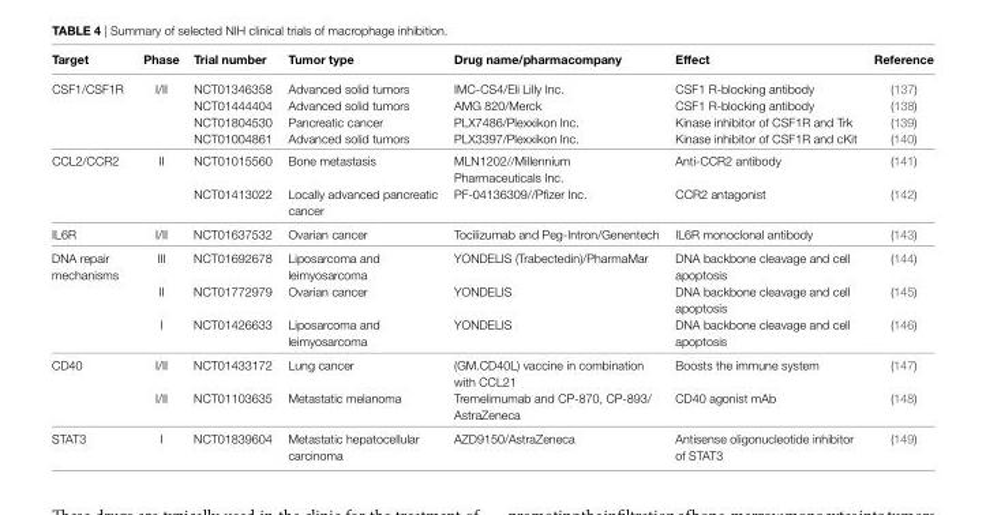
<table><thead><tr><td>Target</td><td>Phase</td><td>Trial number</td><td>Tumor type</td><td>Drug name/pharmacompany</td><td>effect</td><td>Reference</td></tr></thead><tbody><tr><td rowspan="4">CSF1/CSF1R</td><td>I/II</td><td>NCT01346358</td><td>Advanced solid tumors</td><td>IMC-CS4/Eli Lilly Inc.</td><td>CSF1 R-blocking antibody</td><td>(137)</td></tr><tr><td></td><td>NCT01444404</td><td>Advanced solid tumors</td><td>AMG 820/Merck</td><td>CSF1 R-blocking antibody</td><td>(138)</td></tr><tr><td></td><td>NCT01804530</td><td>Pancreatic cancer</td><td>PLX7486/Plexxikon Inc.</td><td>Kinase inhibitor of CSF1R and Trk</td><td>(139)</td></tr><tr><td></td><td>NCT01004861</td><td>Advanced solid tumors</td><td>PLX3397/Plexxikon Inc.</td><td>Kinase inhibitor of CSF1R and cKit</td><td>(140)</td></tr><tr><td rowspan="2">CCL2/CCR2</td><td>II</td><td>NCT01015560</td><td>Bone metastasis</td><td>MLN1202//Millennium Pharmaceuticals Inc.</td><td>Anti-CCR2 antibody</td><td>(141)</td></tr><tr><td></td><td>NCT01413022</td><td>Locally advanced pancreatic cancer</td><td>PF-04136309//Pfizer Inc.</td><td>CCR2 antagonist</td><td>(142)</td></tr><tr><td>IL6R</td><td>I/II</td><td>NCT01637532</td><td>Ovarian cancer</td><td>Tocilizumab and Peg-Intron/Genentech</td><td>IL6R monoclonal antibody</td><td>(143)</td></tr><tr><td rowspan="3">DNA repair mechanisms</td><td>III</td><td>NCT01692678</td><td>Liposarcoma and leimyosarcoma</td><td>YONDELIS (Trabectedin)/PharmaMar</td><td>DNA backbone cleavage and cell apoptosis</td><td>(144)</td></tr><tr><td>II</td><td>NCT01772979</td><td>Ovarian cancer</td><td>YONDELIS</td><td>DNA backbone cleavage and cell apoptosis</td><td>(145)</td></tr><tr><td>I</td><td>NCT01426633</td><td>Liposarcoma and leimyosarcoma</td><td>YONDELIS</td><td>DNA backbone cleavage and cell apoptosis</td><td>(146)</td></tr><tr><td rowspan="2">CD40</td><td>I/II</td><td>NCT01433172</td><td>Lung cancer</td><td>(GM.CD40L) vaccine in combination with CCL21</td><td>Boosts the immune system</td><td>(147)</td></tr><tr><td>I/II</td><td>NCT01103635</td><td>Metastatic melanoma</td><td>Tremelimumab and CP-870, CP-893/ AstraZeneca</td><td>CD40 agonist mAb</td><td>(148)</td></tr><tr><td>STAT3</td><td>I</td><td>NCT01839604</td><td>Metastatic hepatocellular carcinoma</td><td>AZD9150/AstraZeneca</td><td>Antisense oligonucleotide inhibitor of STAT3</td><td>(149)</td></tr></tbody></table>